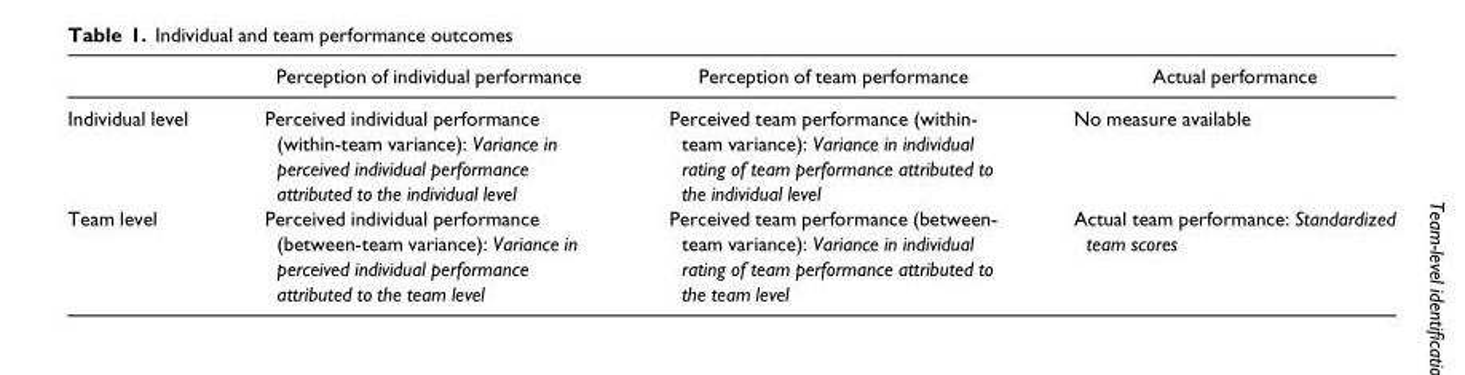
<table><thead><tr><td></td><td>Perception of individual performance</td><td>Perception of team performance</td><td>Actual performance</td></tr></thead><tbody><tr><td>Individual level</td><td>Perceived individual performance (within-team variance): Variance in perceived individual performance attributed to the individual level</td><td>Perceived team performance (within- team variance): Variance in individual rating of team performance attributed to the individual level</td><td>No measure available</td></tr><tr><td>Team level</td><td>Perceived individual performance (between-team variance): Variance in perceived individual performance attributed to the team level</td><td>Perceived team performance (between- team variance): Variance in individual rating of team performance attributed to the team level</td><td>Actual team performance: Standardized team scores</td></tr></tbody></table>